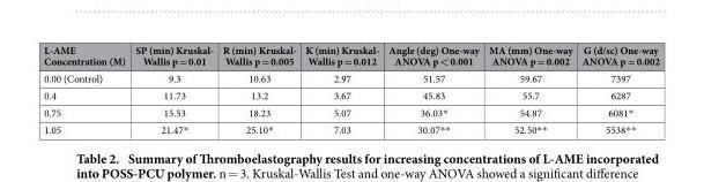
<table><thead><tr><td>L-AME Concentration (M)</td><td>SP (min) Kruskal- Wallis p = 0.01</td><td>R (min) Kruskal- Wallis p = 0.005</td><td>K (min) Kruskal- Wallis p = 0.012</td><td>Angle (deg) One-way ANOVA p &lt; 0.001</td><td>MA (mm) One-way ANOVA p = 0.002</td><td>G (d/sc) One-way ANOVA p = 0.002</td></tr></thead><tbody><tr><td>0.00 (Control)</td><td>9.3</td><td>10.63</td><td>2.97</td><td>51.57</td><td>59.67</td><td>7397</td></tr><tr><td>0.4</td><td>11.73</td><td>13.2</td><td>3.67</td><td>45.83</td><td>55.7</td><td>6287</td></tr><tr><td>0.75</td><td>15.53</td><td>18.23</td><td>5.07</td><td>36.03*</td><td>54.87</td><td>6081*</td></tr><tr><td>1.05</td><td>21.47*</td><td>25.10*</td><td>7.03</td><td>30.07* *</td><td>52.50* *</td><td>5538* *</td></tr></tbody></table>